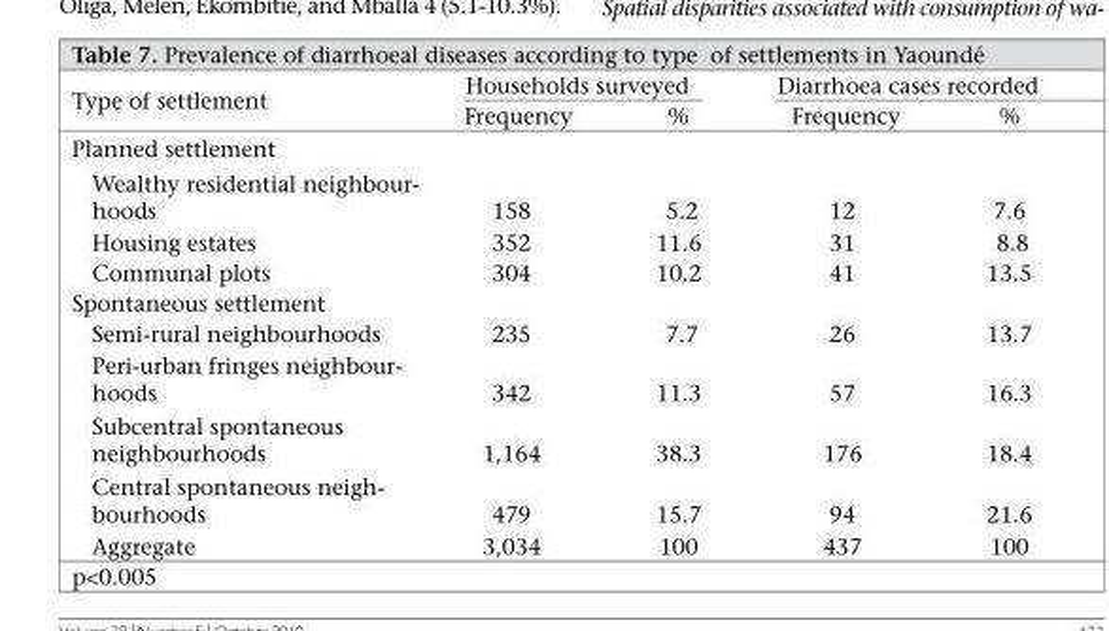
<table><thead><tr><td rowspan="2">Type of settlement</td><td colspan="2">Households surveyed</td><td colspan="2">Diarrhoea cases recorded</td></tr><tr><td>Frequency</td><td>%</td><td>Frequency</td><td>%</td></tr></thead><tbody><tr><td colspan="5">Planned settlement</td></tr><tr><td>Wealthy residential neighbour- hoods</td><td>158</td><td>5.2</td><td>12</td><td>7.6</td></tr><tr><td>Housing estates</td><td>352</td><td>11.6</td><td>31</td><td>8.8</td></tr><tr><td>Communal plots</td><td>304</td><td>10.2</td><td>41</td><td>13.5</td></tr><tr><td colspan="5">Spontaneous settlement</td></tr><tr><td>Semi-rural neighbourhoods</td><td>235</td><td>7.7</td><td>26</td><td>13.7</td></tr><tr><td>Peri-urban fringes neighbour- hoods</td><td>342</td><td>11.3</td><td>57</td><td>16.3</td></tr><tr><td>Subcentral spontaneous neighbourhoods</td><td>1,164</td><td>38.3</td><td>176</td><td>18.4</td></tr><tr><td>Central spontaneous neigh- bourhoods</td><td>479</td><td>15.7</td><td>94</td><td>21.6</td></tr><tr><td>Aggregate</td><td>3,034</td><td>100</td><td>437</td><td>100</td></tr></tbody></table>